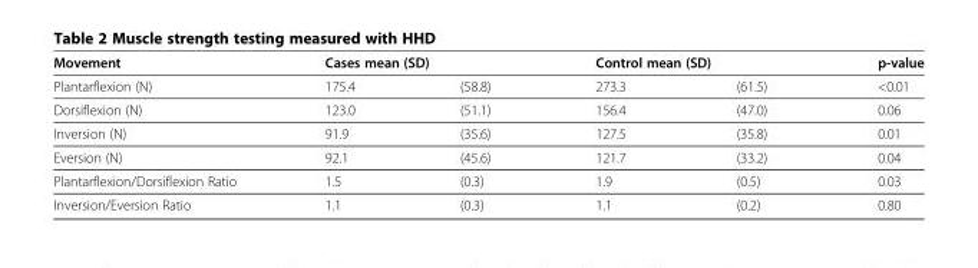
<table><thead><tr><td rowspan="2">Movement Plantarflexion (N)</td><td colspan="2">Cases mean (SD)</td><td colspan="2">Control mean (SD)</td><td rowspan="2">p-value &lt;0.01</td></tr><tr><td>175.4</td><td>(58.8)</td><td>273.3</td><td>(61.5)</td></tr></thead><tbody><tr><td>Dorsiflexion (N)</td><td>123.0</td><td>(51.1)</td><td>156.4</td><td>(47.0)</td><td>0.06</td></tr><tr><td>Inversion (N)</td><td>91.9</td><td>(35.6)</td><td>127.5</td><td>(35.8)</td><td>0.01</td></tr><tr><td>Eversion (N)</td><td>92.1</td><td>(45.6)</td><td>121.7</td><td>(33.2)</td><td>0.04</td></tr><tr><td>Plantarflexion/Dorsiflexion Ratio</td><td>1.5</td><td>(0.3)</td><td>1.9</td><td>(0.5)</td><td>0.03</td></tr><tr><td>Inversion/Eversion Ratio</td><td>1.1</td><td>(0.3)</td><td>1.1</td><td>(0.2)</td><td>0.80</td></tr></tbody></table>